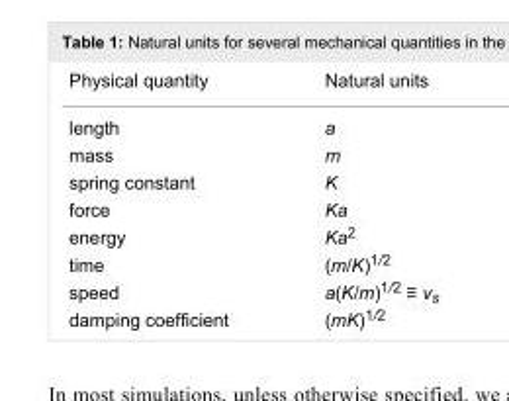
<table><tbody><tr><td>Physical quantity</td><td>Natural units</td></tr><tr><td>length</td><td>a</td></tr><tr><td>mass</td><td>m</td></tr><tr><td>spring constant</td><td>K</td></tr><tr><td>force</td><td>Ka</td></tr><tr><td>energy</td><td>Ka<sup>2</sup></td></tr><tr><td>time</td><td>(m/K)<sup>1/2</sup></td></tr><tr><td>speed</td><td>a(K/m)<sup>1/2</sup> ≡ v<sub>s</sub></td></tr><tr><td>damping coefficient</td><td>(mK)<sup>1/2</sup></td></tr></tbody></table>